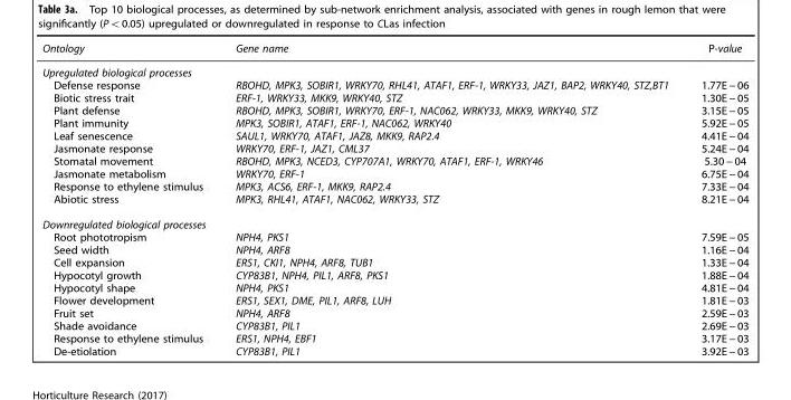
<table><thead><tr><td>Ontology</td><td>Gene name</td><td>P-value</td></tr></thead><tbody><tr><td colspan="3">Upregulated biological processes</td></tr><tr><td>Defense response</td><td>RBOHD, MPK3, SOBIR1, WRKY70, RHL41, ATAF1, ERF-1, WRKY33, JAZ1, BAP2, WRKY40, STZ,BT1</td><td>1.77E − 06</td></tr><tr><td>Biotic stress trait</td><td>ERF-1, WRKY33, MKK9, WRKY40, STZ</td><td>1.30E − 05</td></tr><tr><td>Plant defense</td><td>RBOHD, MPK3, SOBIR1, WRKY70, ERF-1, NAC062, WRKY33, MKK9, WRKY40, STZ</td><td>3.15E − 05</td></tr><tr><td>Plant immunity</td><td>MPK3, SOBIR1, ATAF1, ERF-1, NAC062, WRKY40</td><td>5.92E − 05</td></tr><tr><td>Leaf senescence</td><td>SAUL1, WRKY70, ATAF1, JAZ8, MKK9, RAP2.4</td><td>4.41E − 04</td></tr><tr><td>Jasmonate response</td><td>WRKY70, ERF-1, JAZ1, CML37</td><td>5.24E − 04</td></tr><tr><td>Stomatal movement</td><td>RBOHD, MPK3, NCED3, CYP707A1, WRKY70, ATAF1, ERF-1, WRKY46</td><td>5.30 − 04</td></tr><tr><td>Jasmonate metabolism</td><td>WRKY70, ERF-1</td><td>6.75E − 04</td></tr><tr><td>Response to ethylene stimulus</td><td>MPK3, ACS6, ERF-1, MKK9, RAP2.4</td><td>7.33E − 04</td></tr><tr><td>Abiotic stress</td><td>MPK3, RHL41, ATAF1, NAC062, WRKY33, STZ</td><td>8.21E − 04</td></tr><tr><td colspan="3">Downregulated biological processes</td></tr><tr><td>Root phototropism</td><td>NPH4, PKS1</td><td>7.59E − 05</td></tr><tr><td>Seed width</td><td>NPH4, ARF8</td><td>1.16E − 04</td></tr><tr><td>Cell expansion</td><td>ERS1, CKI1, NPH4, ARF8, TUB1</td><td>1.33E − 04</td></tr><tr><td>Hypocotyl growth</td><td>CYP83B1, NPH4, PIL1, ARF8, PKS1</td><td>1.88E − 04</td></tr><tr><td>Hypocotyl shape</td><td>NPH4, PKS1</td><td>4.81E − 04</td></tr><tr><td>Flower development</td><td>ERS1, SEX1, DME, PIL1, ARF8, LUH</td><td>1.81E − 03</td></tr><tr><td>Fruit set</td><td>NPH4, ARF8</td><td>2.59E − 03</td></tr><tr><td>Shade avoidance</td><td>CYP83B1, PIL1</td><td>2.69E − 03</td></tr><tr><td>Response to ethylene stimulus</td><td>ERS1, NPH4, EBF1</td><td>3.17E − 03</td></tr><tr><td>De-etiolation</td><td>CYP83B1, PIL1</td><td>3.92E − 03</td></tr></tbody></table>